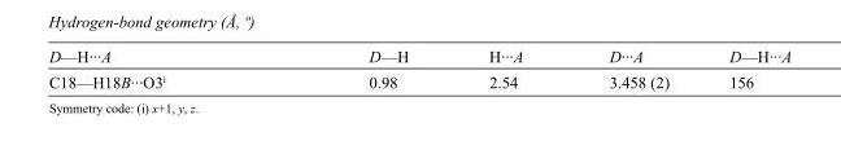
<table><tbody><tr><td>D—H···A</td><td>D—H</td><td>H···A</td><td>D···A</td><td>D—H···A</td></tr><tr><td>C18—H18B···O3<sup>i</sup></td><td>0.98</td><td>2.54</td><td>3.458 (2)</td><td>156</td></tr></tbody></table>